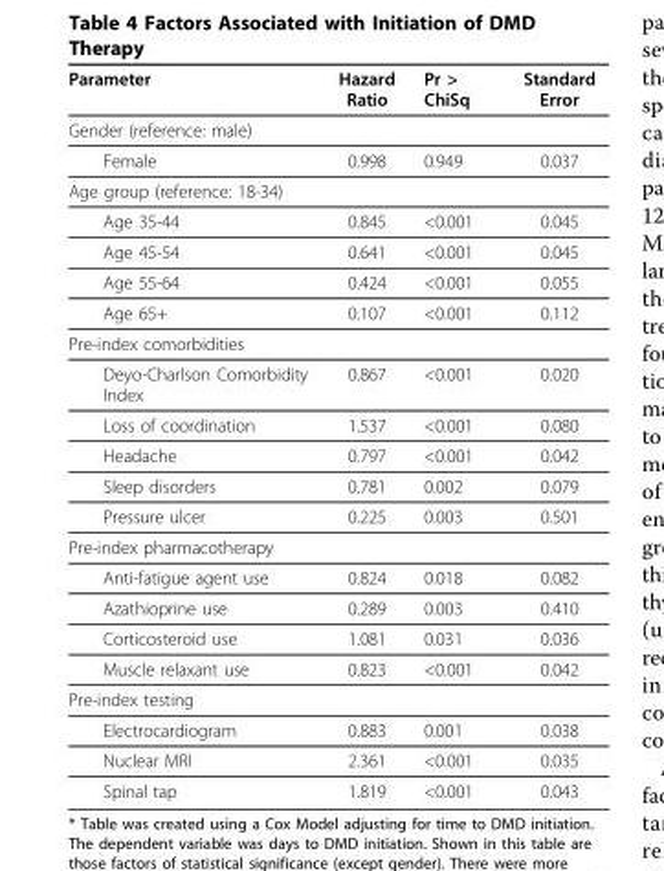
<table><thead><tr><td>Parameter</td><td>Hazard Ratio</td><td>Pr &gt; ChiSq</td><td>Standard Error</td></tr></thead><tbody><tr><td colspan="4">Gender (reference: male)</td></tr><tr><td>Female</td><td>0.998</td><td>0.949</td><td>0.037</td></tr><tr><td colspan="4">Age group (reference: 18-34)</td></tr><tr><td>Age 35-44</td><td>0.845</td><td>&lt;0.001</td><td>0.045</td></tr><tr><td>Age 45-54</td><td>0.641</td><td>&lt;0.001</td><td>0.045</td></tr><tr><td>Age 55-64</td><td>0.424</td><td>&lt;0.001</td><td>0.055</td></tr><tr><td>Age 65+</td><td>0.107</td><td>&lt;0.001</td><td>0.112</td></tr><tr><td colspan="4">Pre-index comorbidities</td></tr><tr><td>Deyo-Charlson Comorbidity Index</td><td>0.867</td><td>&lt;0.001</td><td>0.020</td></tr><tr><td>Loss of coordination</td><td>1.537</td><td>&lt;0.001</td><td>0.080</td></tr><tr><td>Headache</td><td>0.797</td><td>&lt;0.001</td><td>0.042</td></tr><tr><td>Sleep disorders</td><td>0.781</td><td>0.002</td><td>0.079</td></tr><tr><td>Pressure ulcer</td><td>0.225</td><td>0.003</td><td>0.501</td></tr><tr><td colspan="4">Pre-index pharmacotherapy</td></tr><tr><td>Anti-fatigue agent use</td><td>0.824</td><td>0.018</td><td>0.082</td></tr><tr><td>Azathioprine use</td><td>0.289</td><td>0.003</td><td>0.410</td></tr><tr><td>Corticosteroid use</td><td>1.081</td><td>0.031</td><td>0.036</td></tr><tr><td>Muscle relaxant use</td><td>0.823</td><td>&lt;0.001</td><td>0.042</td></tr><tr><td colspan="4">Pre-index testing</td></tr><tr><td>Electrocardiogram</td><td>0.883</td><td>0.001</td><td>0.038</td></tr><tr><td>Nuclear MRI</td><td>2.361</td><td>&lt;0.001</td><td>0.035</td></tr><tr><td>Spinal tap</td><td>1.819</td><td>&lt;0.001</td><td>0.043</td></tr></tbody></table>